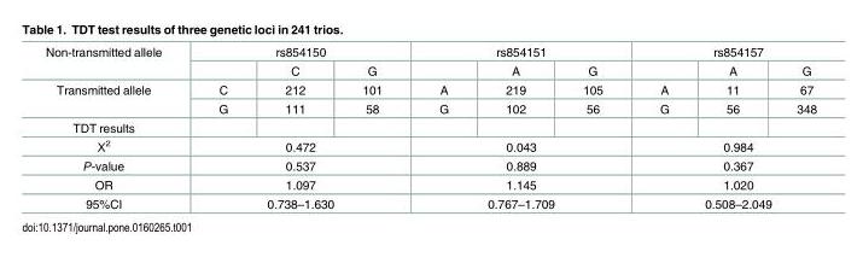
<table><tbody><tr><td rowspan="2">Non-transmitted allele</td><td colspan="3">rs854150</td><td colspan="3">rs854151</td><td colspan="3">rs854157</td></tr><tr><td></td><td>C</td><td>G</td><td></td><td>A</td><td>G</td><td></td><td>A</td><td>G</td></tr><tr><td rowspan="2">Transmitted allele</td><td>C</td><td>212</td><td>101</td><td>A</td><td>219</td><td>105</td><td>A</td><td>11</td><td>67</td></tr><tr><td>G</td><td>111</td><td>58</td><td>G</td><td>102</td><td>56</td><td>G</td><td>56</td><td>348</td></tr><tr><td colspan="10">TDT results</td></tr><tr><td>Χ<sup>2</sup></td><td colspan="3">0.472</td><td colspan="3">0.043</td><td colspan="3">0.984</td></tr><tr><td>P-value</td><td colspan="3">0.537</td><td colspan="3">0.889</td><td colspan="3">0.367</td></tr><tr><td>OR</td><td colspan="3">1.097</td><td colspan="3">1.145</td><td colspan="3">1.020</td></tr><tr><td>95%CI</td><td colspan="3">0.738–1.630</td><td colspan="3">0.767–1.709</td><td colspan="3">0.508–2.049</td></tr></tbody></table>